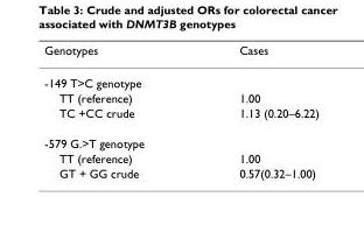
<table><thead><tr><td>Genotypes</td><td>Cases</td></tr></thead><tbody><tr><td colspan="2">-149 T&gt;C genotype</td></tr><tr><td>TT (reference)</td><td>1.00</td></tr><tr><td>TC +CC crude</td><td>1.13 (0.20–6.22)</td></tr><tr><td colspan="2">-579 G.&gt;T genotype</td></tr><tr><td>TT (reference)</td><td>1.00</td></tr><tr><td>GT + GG crude</td><td>0.57(0.32–1.00)</td></tr></tbody></table>